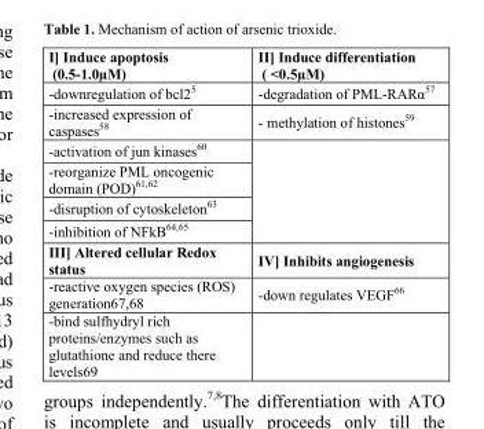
<table><thead><tr><td>I] Induce apoptosis (0.5-1.0µM)</td><td>II] Induce differentiation ( &lt;0.5µM)</td></tr></thead><tbody><tr><td>-downregulation of bcl2<sup>5</sup></td><td>-degradation of PML-RARα<sup>57</sup></td></tr><tr><td>-increased expression of caspases<sup>58</sup></td><td>- methylation of histones<sup>59</sup></td></tr><tr><td>-activation of jun kinases<sup>60</sup></td><td rowspan="4"></td></tr><tr><td>-reorganize PML oncogenic domain (POD)<sup>61</sup>,<sup>62</sup></td></tr><tr><td>-disruption of cytoskeleton<sup>63</sup></td></tr><tr><td>-inhibition of NFkB<sup>64</sup>,<sup>65</sup></td></tr><tr><td>III] Altered cellular Redox status</td><td>IV] Inhibits angiogenesis</td></tr><tr><td>-reactive oxygen species (ROS) generation<sup>67</sup>,<sup>68</sup></td><td>-down regulates VEGF<sup>66</sup></td></tr><tr><td>-bind sulfhydryl rich proteins/enzymes such as glutathione and reduce there levels<sup>69</sup></td><td></td></tr></tbody></table>